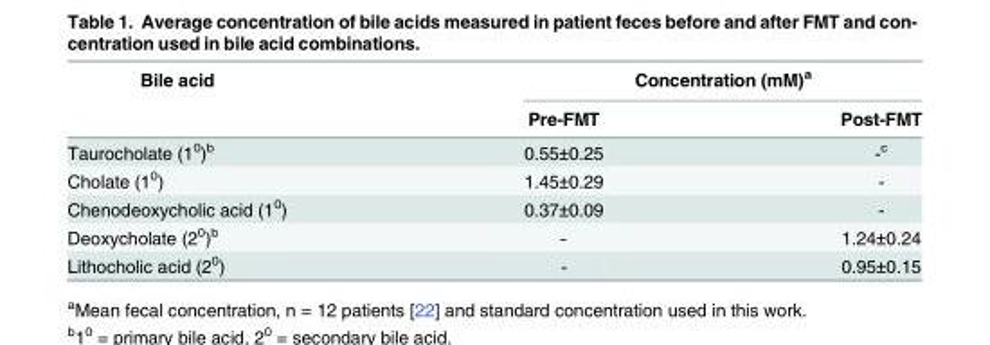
<table><thead><tr><td rowspan="2">Bile acid</td><td colspan="2">Concentration (mM)<sup>a</sup></td></tr><tr><td>Pre-FMT</td><td>Post-FMT</td></tr></thead><tbody><tr><td>Taurocholate (1<sup>0</sup>)<sup>b</sup></td><td>0.55±0.25</td><td>-<sup>c</sup></td></tr><tr><td>Cholate (1<sup>0</sup>)</td><td>1.45±0.29</td><td>-</td></tr><tr><td>Chenodeoxycholic acid (1<sup>0</sup>)</td><td>0.37±0.09</td><td>-</td></tr><tr><td>Deoxycholate (2<sup>0</sup>)<sup>b</sup></td><td>-</td><td>1.24±0.24</td></tr><tr><td>Lithocholic acid (2<sup>0</sup>)</td><td>-</td><td>0.95±0.15</td></tr></tbody></table>